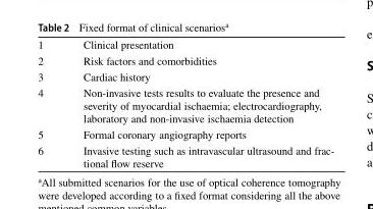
<table><tbody><tr><td>1</td><td>Clinical presentation</td></tr><tr><td>2</td><td>Risk factors and comorbidities</td></tr><tr><td>3</td><td>Cardiac history</td></tr><tr><td>4</td><td>Non-invasive tests results to evaluate the presence and severity of myocardial ischaemia; electrocardiography, laboratory and non-invasive ischaemia detection</td></tr><tr><td>5</td><td>Formal coronary angiography reports</td></tr><tr><td>6</td><td>Invasive testing such as intravascular ultrasound and frac- tional flow reserve</td></tr></tbody></table>